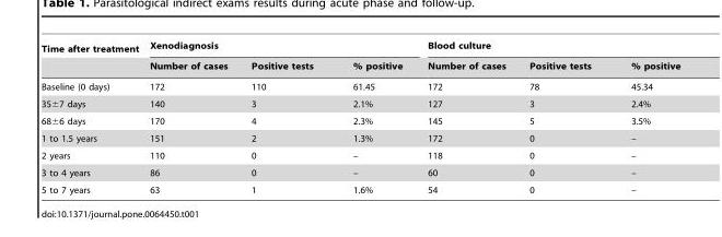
<table><thead><tr><td rowspan="2">Time after treatment</td><td colspan="3">Xenodiagnosis</td><td colspan="3">Blood culture</td></tr><tr><td>Number of cases</td><td>Positive tests</td><td>% positive</td><td>Number of cases</td><td>Positive tests</td><td>% positive</td></tr></thead><tbody><tr><td>Baseline (0 days)</td><td>172</td><td>110</td><td>61.45</td><td>172</td><td>78</td><td>45.34</td></tr><tr><td>35±7 days</td><td>140</td><td>3</td><td>2.1%</td><td>127</td><td>3</td><td>2.4%</td></tr><tr><td>68±6 days</td><td>170</td><td>4</td><td>2.3%</td><td>145</td><td>5</td><td>3.5%</td></tr><tr><td>1 to 1.5 years</td><td>151</td><td>2</td><td>1.3%</td><td>172</td><td>0</td><td>–</td></tr><tr><td>2 years</td><td>110</td><td>0</td><td>–</td><td>118</td><td>0</td><td>–</td></tr><tr><td>3 to 4 years</td><td>86</td><td>0</td><td>–</td><td>60</td><td>0</td><td>–</td></tr><tr><td>5 to 7 years</td><td>63</td><td>1</td><td>1.6%</td><td>54</td><td>0</td><td>–</td></tr></tbody></table>